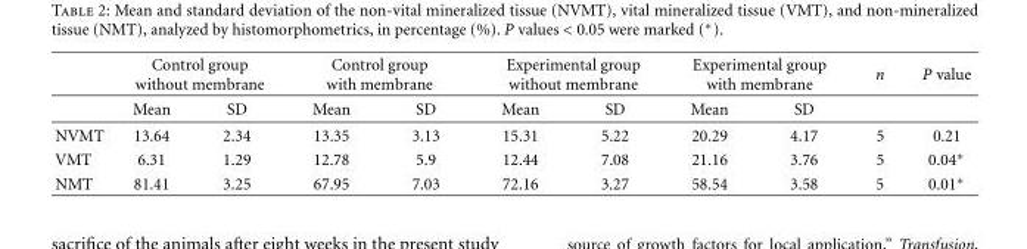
<table><thead><tr><td rowspan="2"></td><td colspan="2">Control group without membrane</td><td colspan="2">Control group with membrane</td><td colspan="2">Experimental group without membrane</td><td colspan="2">Experimental group with membrane</td><td rowspan="2">n</td><td rowspan="2">P value</td></tr><tr><td>Mean</td><td>SD</td><td>Mean</td><td>SD</td><td>Mean</td><td>SD</td><td>Mean</td><td>SD</td></tr></thead><tbody><tr><td>NVMT</td><td>13.64</td><td>2.34</td><td>13.35</td><td>3.13</td><td>15.31</td><td>5.22</td><td>20.29</td><td>4.17</td><td>5</td><td>0.21</td></tr><tr><td>VMT</td><td>6.31</td><td>1.29</td><td>12.78</td><td>5.9</td><td>12.44</td><td>7.08</td><td>21.16</td><td>3.76</td><td>5</td><td>0.04∗</td></tr><tr><td>NMT</td><td>81.41</td><td>3.25</td><td>67.95</td><td>7.03</td><td>72.16</td><td>3.27</td><td>58.54</td><td>3.58</td><td>5</td><td>0.01∗</td></tr></tbody></table>